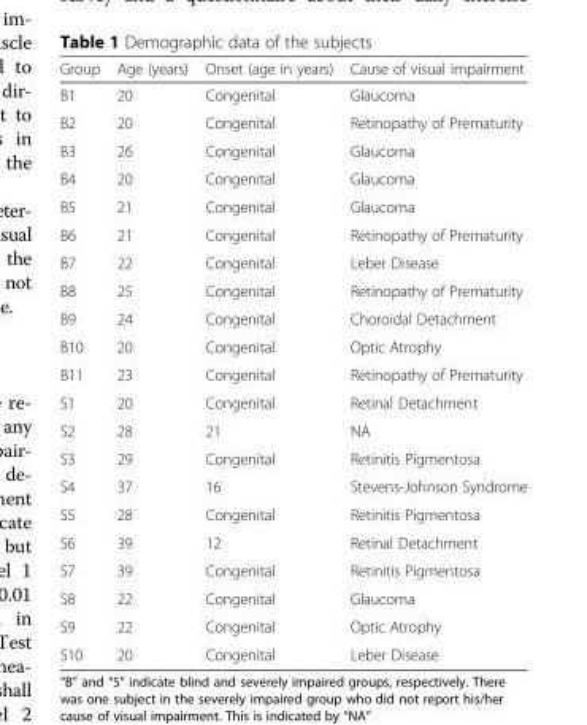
<table><thead><tr><td>Group</td><td>Age (years)</td><td>Onset (age in years)</td><td>Cause of visual impairment</td></tr></thead><tbody><tr><td>B1</td><td>20</td><td>Congenital</td><td>Glaucoma</td></tr><tr><td>B2</td><td>20</td><td>Congenital</td><td>Retinopathy of Prematurity</td></tr><tr><td>B3</td><td>26</td><td>Congenital</td><td>Glaucoma</td></tr><tr><td>B4</td><td>20</td><td>Congenital</td><td>Glaucoma</td></tr><tr><td>B5</td><td>21</td><td>Congenital</td><td>Glaucoma</td></tr><tr><td>B6</td><td>21</td><td>Congenital</td><td>Retinopathy of Prematurity</td></tr><tr><td>B7</td><td>22</td><td>Congenital</td><td>Leber Disease</td></tr><tr><td>B8</td><td>25</td><td>Congenital</td><td>Retinopathy of Prematurity</td></tr><tr><td>B9</td><td>24</td><td>Congenital</td><td>Choroidal Detachment</td></tr><tr><td>B10</td><td>20</td><td>Congenital</td><td>Optic Atrophy</td></tr><tr><td>B11</td><td>23</td><td>Congenital</td><td>Retinopathy of Prematurity</td></tr><tr><td>S1</td><td>20</td><td>Congenital</td><td>Retinal Detachment</td></tr><tr><td>S2</td><td>28</td><td>21</td><td>NA</td></tr><tr><td>S3</td><td>29</td><td>Congenital</td><td>Retinitis Pigmentosa</td></tr><tr><td>S4</td><td>37</td><td>16</td><td>Stevens-Johnson Syndrome</td></tr><tr><td>S5</td><td>28</td><td>Congenital</td><td>Retinitis Pigmentosa</td></tr><tr><td>S6</td><td>39</td><td>12</td><td>Retinal Detachment</td></tr><tr><td>S7</td><td>39</td><td>Congenital</td><td>Retinitis Pigmentosa</td></tr><tr><td>S8</td><td>22</td><td>Congenital</td><td>Glaucoma</td></tr><tr><td>S9</td><td>22</td><td>Congenital</td><td>Optic Atrophy</td></tr><tr><td>S10</td><td>20</td><td>Congenital</td><td>Leber Disease</td></tr></tbody></table>